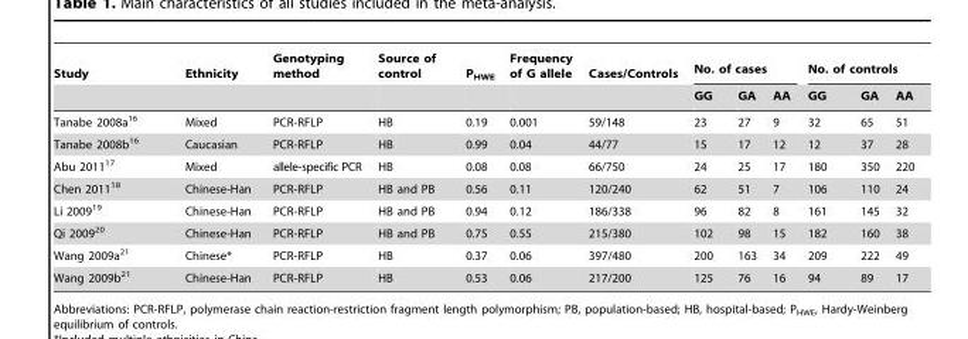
<table><thead><tr><td rowspan="2">Study</td><td rowspan="2">Ethnicity</td><td rowspan="2">Genotyping method</td><td rowspan="2">Source of control</td><td rowspan="2">P<sub>HWE</sub></td><td rowspan="2">Frequency of G allele</td><td rowspan="2">Cases/Controls</td><td colspan="3">No. of cases</td><td colspan="3">No. of controls</td></tr><tr><td>GG</td><td>GA</td><td>AA</td><td>GG</td><td>GA</td><td>AA</td></tr></thead><tbody><tr><td>Tanabe 2008a<sup>16</sup></td><td>Mixed</td><td>PCR-RFLP</td><td>HB</td><td>0.19</td><td>0.001</td><td>59/148</td><td>23</td><td>27</td><td>9</td><td>32</td><td>65</td><td>51</td></tr><tr><td>Tanabe 2008b<sup>16</sup></td><td>Caucasian</td><td>PCR-RFLP</td><td>HB</td><td>0.99</td><td>0.04</td><td>44/77</td><td>15</td><td>17</td><td>12</td><td>12</td><td>37</td><td>28</td></tr><tr><td>Abu 2011<sup>17</sup></td><td>Mixed</td><td>allele-specific PCR</td><td>HB</td><td>0.08</td><td>0.08</td><td>66/750</td><td>24</td><td>25</td><td>17</td><td>180</td><td>350</td><td>220</td></tr><tr><td>Chen 2011<sup>18</sup></td><td>Chinese-Han</td><td>PCR-RFLP</td><td>HB and PB</td><td>0.56</td><td>0.11</td><td>120/240</td><td>62</td><td>51</td><td>7</td><td>106</td><td>110</td><td>24</td></tr><tr><td>Li 2009<sup>19</sup></td><td>Chinese-Han</td><td>PCR-RFLP</td><td>HB and PB</td><td>0.94</td><td>0.12</td><td>186/338</td><td>96</td><td>82</td><td>8</td><td>161</td><td>145</td><td>32</td></tr><tr><td>Qi 2009<sup>20</sup></td><td>Chinese-Han</td><td>PCR-RFLP</td><td>HB and PB</td><td>0.75</td><td>0.55</td><td>215/380</td><td>102</td><td>98</td><td>15</td><td>182</td><td>160</td><td>38</td></tr><tr><td>Wang 2009a<sup>21</sup></td><td>Chinese*</td><td>PCR-RFLP</td><td>HB</td><td>0.37</td><td>0.06</td><td>397/480</td><td>200</td><td>163</td><td>34</td><td>209</td><td>222</td><td>49</td></tr><tr><td>Wang 2009b<sup>21</sup></td><td>Chinese-Han</td><td>PCR-RFLP</td><td>HB</td><td>0.53</td><td>0.06</td><td>217/200</td><td>125</td><td>76</td><td>16</td><td>94</td><td>89</td><td>17</td></tr></tbody></table>